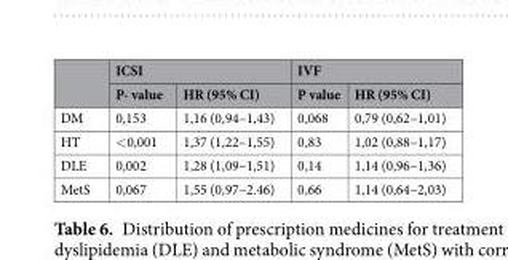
<table><thead><tr><td rowspan="2"></td><td colspan="2">ICSI</td><td colspan="2">IVF</td></tr><tr><td>P- value</td><td>HR (95% CI)</td><td>P value</td><td>HR (95% CI)</td></tr></thead><tbody><tr><td>DM</td><td>0,153</td><td>1,16 (0,94–1,43)</td><td>0,068</td><td>0,79 (0,62–1,01)</td></tr><tr><td>HT</td><td>&lt;0,001</td><td>1,37 (1,22–1,55)</td><td>0,83</td><td>1,02 (0,88–1,17)</td></tr><tr><td>DLE</td><td>0,002</td><td>1,28 (1,09–1,51)</td><td>0,14</td><td>1,14 (0,96–1,36)</td></tr><tr><td>MetS</td><td>0,067</td><td>1,55 (0,97–2.46)</td><td>0,66</td><td>1,14 (0,64–2,03)</td></tr></tbody></table>